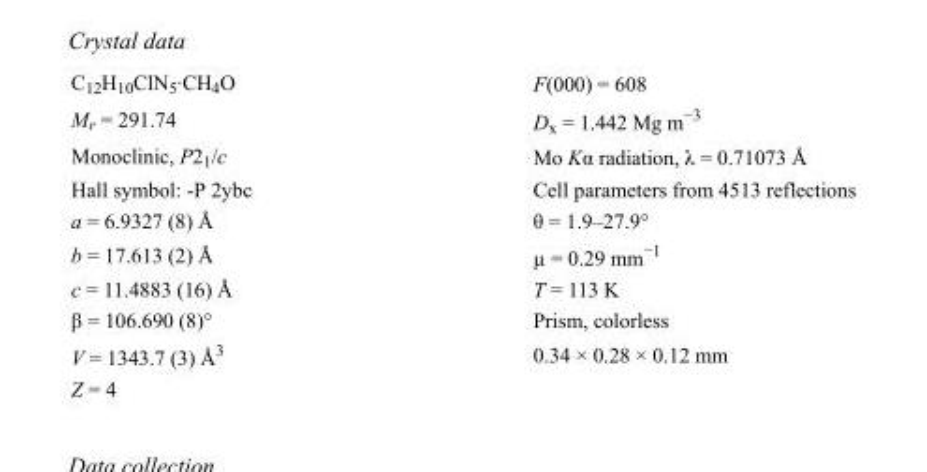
<table><tbody><tr><td>C<sub>12</sub>H<sub>10</sub>ClN<sub>5</sub>·CH<sub>4</sub>O</td><td>F(000) = 608</td></tr><tr><td>M<sub>r</sub> = 291.74</td><td>D<sub>x</sub> = 1.442 Mg m<sup>−3</sup></td></tr><tr><td>Monoclinic, P2<sub>1</sub>/c</td><td>Mo Kα radiation, λ = 0.71073 Å</td></tr><tr><td>Hall symbol: -P 2ybc</td><td>Cell parameters from 4513 reflections</td></tr><tr><td>a = 6.9327 (8) Å</td><td>θ = 1.9–27.9°</td></tr><tr><td>b = 17.613 (2) Å</td><td>µ = 0.29 mm<sup>−1</sup></td></tr><tr><td>c = 11.4883 (16) Å</td><td>T = 113 K</td></tr><tr><td>β = 106.690 (8)°</td><td>Prism, colorless</td></tr><tr><td>V = 1343.7 (3) Å<sup>3</sup></td><td>0.34 × 0.28 × 0.12 mm</td></tr><tr><td>Z = 4</td><td></td></tr></tbody></table>